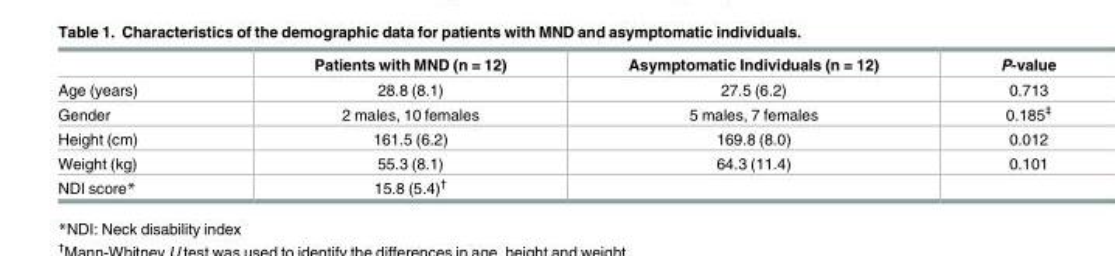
<table><thead><tr><td></td><td>Patients with MND (n = 12)</td><td>Asymptomatic Individuals (n = 12)</td><td>P-value</td></tr></thead><tbody><tr><td>Age (years)</td><td>28.8 (8.1)</td><td>27.5 (6.2)</td><td>0.713</td></tr><tr><td>Gender</td><td>2 males, 10 females</td><td>5 males, 7 females</td><td>0.185<sup>‡</sup></td></tr><tr><td>Height (cm)</td><td>161.5 (6.2)</td><td>169.8 (8.0)</td><td>0.012</td></tr><tr><td>Weight (kg)</td><td>55.3 (8.1)</td><td>64.3 (11.4)</td><td>0.101</td></tr><tr><td>NDI score*</td><td>15.8 (5.4)<sup>†</sup></td><td></td><td></td></tr></tbody></table>